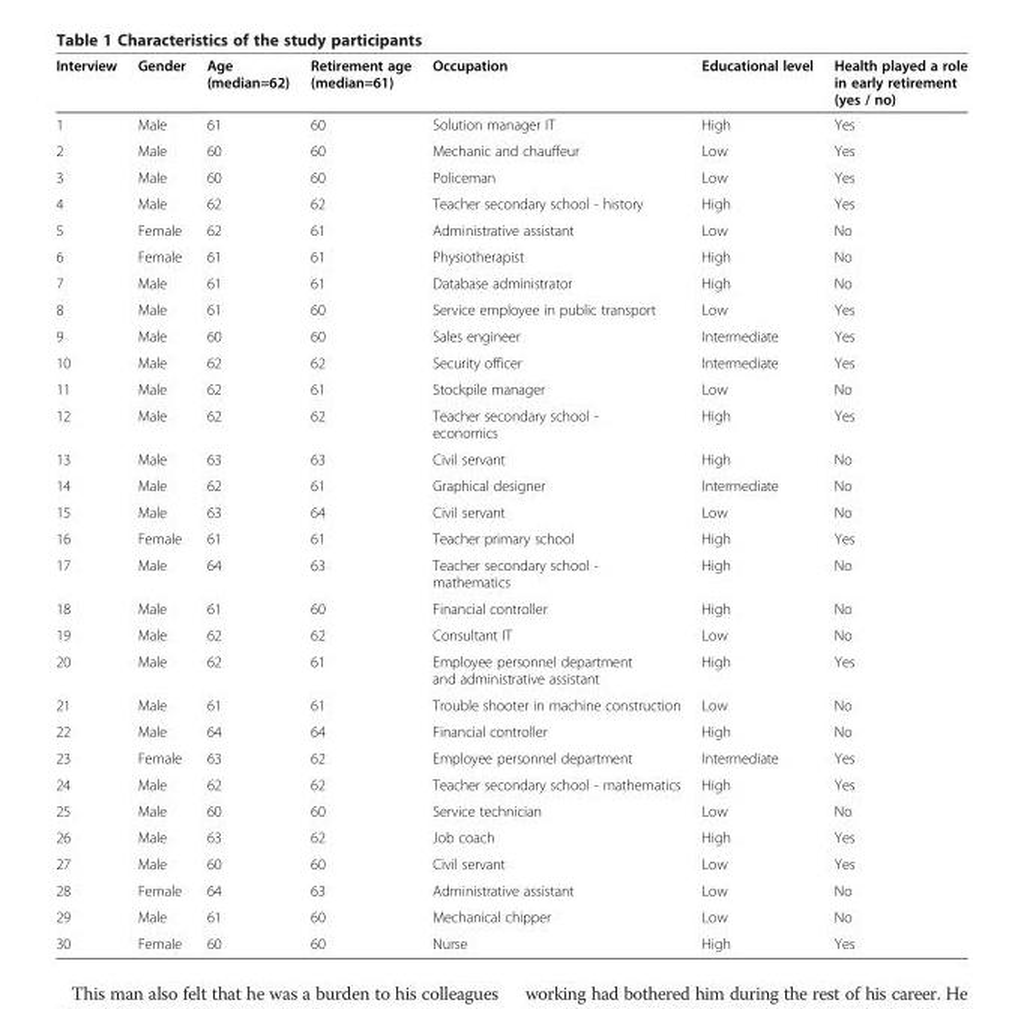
<table><thead><tr><td>Interview</td><td>Gender</td><td>Age (median=62)</td><td>Retirement age (median=61)</td><td>Occupation</td><td>Educational level</td><td>Health played a role in early retirement (yes / no)</td></tr></thead><tbody><tr><td>1</td><td>Male</td><td>61</td><td>60</td><td>Solution manager IT</td><td>High</td><td>Yes</td></tr><tr><td>2</td><td>Male</td><td>60</td><td>60</td><td>Mechanic and chauffeur</td><td>Low</td><td>Yes</td></tr><tr><td>3</td><td>Male</td><td>60</td><td>60</td><td>Policeman</td><td>Low</td><td>Yes</td></tr><tr><td>4</td><td>Male</td><td>62</td><td>62</td><td>Teacher secondary school - history</td><td>High</td><td>Yes</td></tr><tr><td>5</td><td>Female</td><td>62</td><td>61</td><td>Administrative assistant</td><td>Low</td><td>No</td></tr><tr><td>6</td><td>Female</td><td>61</td><td>61</td><td>Physiotherapist</td><td>High</td><td>No</td></tr><tr><td>7</td><td>Male</td><td>61</td><td>61</td><td>Database administrator</td><td>High</td><td>No</td></tr><tr><td>8</td><td>Male</td><td>61</td><td>60</td><td>Service employee in public transport</td><td>Low</td><td>Yes</td></tr><tr><td>9</td><td>Male</td><td>60</td><td>60</td><td>Sales engineer</td><td>Intermediate</td><td>Yes</td></tr><tr><td>10</td><td>Male</td><td>62</td><td>62</td><td>Security officer</td><td>Intermediate</td><td>Yes</td></tr><tr><td>11</td><td>Male</td><td>62</td><td>61</td><td>Stockpile manager</td><td>Low</td><td>No</td></tr><tr><td>12</td><td>Male</td><td>62</td><td>62</td><td>Teacher secondary school - economics</td><td>High</td><td>Yes</td></tr><tr><td>13</td><td>Male</td><td>63</td><td>63</td><td>Civil servant</td><td>High</td><td>No</td></tr><tr><td>14</td><td>Male</td><td>62</td><td>61</td><td>Graphical designer</td><td>Intermediate</td><td>No</td></tr><tr><td>15</td><td>Male</td><td>63</td><td>64</td><td>Civil servant</td><td>Low</td><td>No</td></tr><tr><td>16</td><td>Female</td><td>61</td><td>61</td><td>Teacher primary school</td><td>High</td><td>Yes</td></tr><tr><td>17</td><td>Male</td><td>64</td><td>63</td><td>Teacher secondary school - mathematics</td><td>High</td><td>No</td></tr><tr><td>18</td><td>Male</td><td>61</td><td>60</td><td>Financial controller</td><td>High</td><td>No</td></tr><tr><td>19</td><td>Male</td><td>62</td><td>62</td><td>Consultant IT</td><td>Low</td><td>No</td></tr><tr><td>20</td><td>Male</td><td>62</td><td>61</td><td>Employee personnel department and administrative assistant</td><td>High</td><td>Yes</td></tr><tr><td>21</td><td>Male</td><td>61</td><td>61</td><td>Trouble shooter in machine construction</td><td>Low</td><td>No</td></tr><tr><td>22</td><td>Male</td><td>64</td><td>64</td><td>Financial controller</td><td>High</td><td>No</td></tr><tr><td>23</td><td>Female</td><td>63</td><td>62</td><td>Employee personnel department</td><td>Intermediate</td><td>Yes</td></tr><tr><td>24</td><td>Male</td><td>62</td><td>62</td><td>Teacher secondary school - mathematics</td><td>High</td><td>Yes</td></tr><tr><td>25</td><td>Male</td><td>60</td><td>60</td><td>Service technician</td><td>Low</td><td>No</td></tr><tr><td>26</td><td>Male</td><td>63</td><td>62</td><td>Job coach</td><td>High</td><td>Yes</td></tr><tr><td>27</td><td>Male</td><td>60</td><td>60</td><td>Civil servant</td><td>Low</td><td>Yes</td></tr><tr><td>28</td><td>Female</td><td>64</td><td>63</td><td>Administrative assistant</td><td>Low</td><td>No</td></tr><tr><td>29</td><td>Male</td><td>61</td><td>60</td><td>Mechanical chipper</td><td>Low</td><td>No</td></tr><tr><td>30</td><td>Female</td><td>60</td><td>60</td><td>Nurse</td><td>High</td><td>Yes</td></tr></tbody></table>